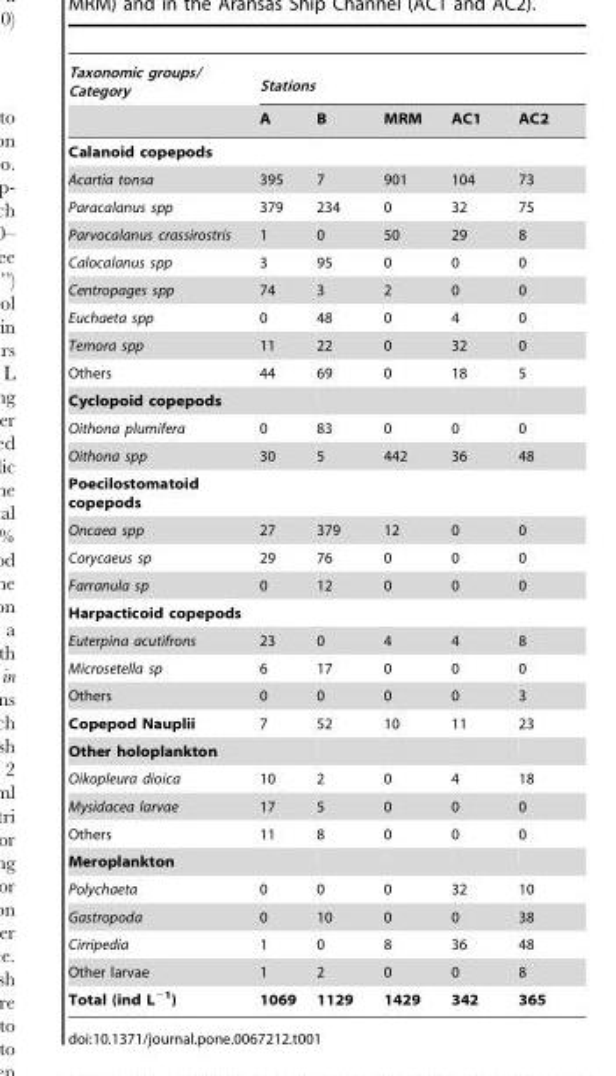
<table><thead><tr><td rowspan="2">Taxonomic groups/ Category</td><td colspan="5">Stations</td></tr><tr><td>A</td><td>B</td><td>MRM</td><td>AC1</td><td>AC2</td></tr></thead><tbody><tr><td colspan="6">Calanoid copepods</td></tr><tr><td>Acartia tonsa</td><td>395</td><td>7</td><td>901</td><td>104</td><td>73</td></tr><tr><td>Paracalanus spp</td><td>379</td><td>234</td><td>0</td><td>32</td><td>75</td></tr><tr><td>Parvocalanus crassirostris</td><td>1</td><td>0</td><td>50</td><td>29</td><td>8</td></tr><tr><td>Calocalanus spp</td><td>3</td><td>95</td><td>0</td><td>0</td><td>0</td></tr><tr><td>Centropages spp</td><td>74</td><td>3</td><td>2</td><td>0</td><td>0</td></tr><tr><td>Euchaeta spp</td><td>0</td><td>48</td><td>0</td><td>4</td><td>0</td></tr><tr><td>Temora spp</td><td>11</td><td>22</td><td>0</td><td>32</td><td>0</td></tr><tr><td>Others</td><td>44</td><td>69</td><td>0</td><td>18</td><td>5</td></tr><tr><td colspan="6">Cyclopoid copepods</td></tr><tr><td>Oithona plumifera</td><td>0</td><td>83</td><td>0</td><td>0</td><td>0</td></tr><tr><td>Oithona spp</td><td>30</td><td>5</td><td>442</td><td>36</td><td>48</td></tr><tr><td colspan="6">Poecilostomatoid copepods</td></tr><tr><td>Oncaea spp</td><td>27</td><td>379</td><td>12</td><td>0</td><td>0</td></tr><tr><td>Corycaeus sp</td><td>29</td><td>76</td><td>0</td><td>0</td><td>0</td></tr><tr><td>Farranula sp</td><td>0</td><td>12</td><td>0</td><td>0</td><td>0</td></tr><tr><td colspan="6">Harpacticoid copepods</td></tr><tr><td>Euterpina acutifrons</td><td>23</td><td>0</td><td>4</td><td>4</td><td>8</td></tr><tr><td>Microsetella sp</td><td>6</td><td>17</td><td>0</td><td>0</td><td>0</td></tr><tr><td>Others</td><td>0</td><td>0</td><td>0</td><td>0</td><td>3</td></tr><tr><td>Copepod Nauplii</td><td>7</td><td>52</td><td>10</td><td>11</td><td>23</td></tr><tr><td colspan="6">Other holoplankton</td></tr><tr><td>Oikopleura dioica</td><td>10</td><td>2</td><td>0</td><td>4</td><td>18</td></tr><tr><td>Mysidacea larvae</td><td>17</td><td>5</td><td>0</td><td>0</td><td>0</td></tr><tr><td>Others</td><td>11</td><td>8</td><td>0</td><td>0</td><td>0</td></tr><tr><td colspan="6">Meroplankton</td></tr><tr><td>Polychaeta</td><td>0</td><td>0</td><td>0</td><td>32</td><td>10</td></tr><tr><td>Gastropoda</td><td>0</td><td>10</td><td>0</td><td>0</td><td>38</td></tr><tr><td>Cirripedia</td><td>1</td><td>0</td><td>8</td><td>36</td><td>48</td></tr><tr><td>Other larvae</td><td>1</td><td>2</td><td>0</td><td>0</td><td>8</td></tr><tr><td>Total (ind L<sup>−1</sup>)</td><td>1069</td><td>1129</td><td>1429</td><td>342</td><td>365</td></tr></tbody></table>